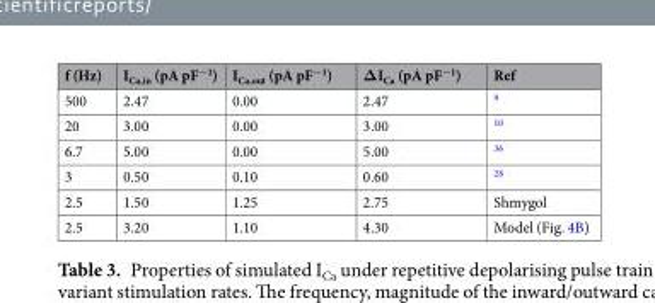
<table><thead><tr><td>f (Hz)</td><td>I<sub>Ca,in</sub> (pA pF<sup>−1</sup>)</td><td>I<sub>Ca,out</sub> (pA pF<sup>−1</sup>)</td><td>ΔI<sub>Ca</sub> (pA pF<sup>−1</sup>)</td><td>Ref</td></tr></thead><tbody><tr><td>500</td><td>2.47</td><td>0.00</td><td>2.47</td><td><sup>9</sup></td></tr><tr><td>20</td><td>3.00</td><td>0.00</td><td>3.00</td><td><sup>10</sup></td></tr><tr><td>6.7</td><td>5.00</td><td>0.00</td><td>5.00</td><td><sup>36</sup></td></tr><tr><td>3</td><td>0.50</td><td>0.10</td><td>0.60</td><td><sup>28</sup></td></tr><tr><td>2.5</td><td>1.50</td><td>1.25</td><td>2.75</td><td>Shmygol</td></tr><tr><td>2.5</td><td>3.20</td><td>1.10</td><td>4.30</td><td>Model (Fig. 4B)</td></tr></tbody></table>